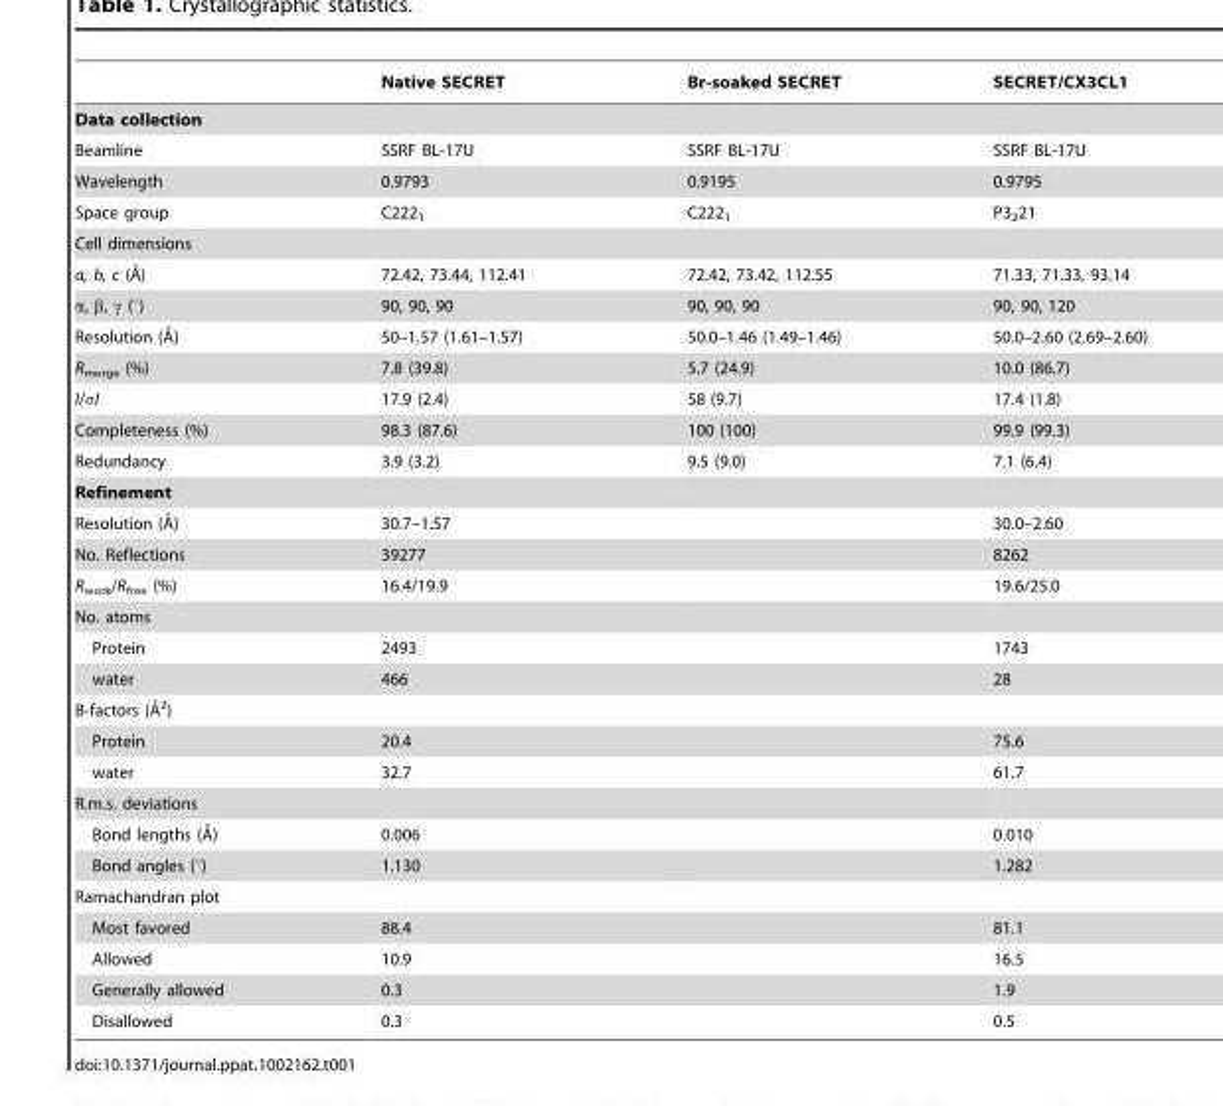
<table><thead><tr><td></td><td>Native SECRET</td><td>Br-soaked SECRET</td><td>SECRET/CX3CL1</td></tr></thead><tbody><tr><td colspan="4">Data collection</td></tr><tr><td>Beamline</td><td>SSRF BL-17U</td><td>SSRF BL-17U</td><td>SSRF BL-17U</td></tr><tr><td>Wavelength</td><td>0.9793</td><td>0.9195</td><td>0.9795</td></tr><tr><td>Space group</td><td>C222<sub>1</sub></td><td>C222<sub>1</sub></td><td>P3<sub>2</sub>21</td></tr><tr><td colspan="4">Cell dimensions</td></tr><tr><td>a, b, c (A˚)</td><td>72.42, 73.44, 112.41</td><td>72.42, 73.42, 112.55</td><td>71.33, 71.33, 93.14</td></tr><tr><td>α, β, γ (°)</td><td>90, 90, 90</td><td>90, 90, 90</td><td>90, 90, 120</td></tr><tr><td>Resolution (A˚)</td><td>50–1.57 (1.61–1.57)</td><td>50.0–1.46 (1.49–1.46)</td><td>50.0–2.60 (2.69–2.60)</td></tr><tr><td>R<sub>merge</sub> (%)</td><td>7.8 (39.8)</td><td>5.7 (24.9)</td><td>10.0 (86.7)</td></tr><tr><td>I/σI</td><td>17.9 (2.4)</td><td>58 (9.7)</td><td>17.4 (1.8)</td></tr><tr><td>Completeness (%)</td><td>98.3 (87.6)</td><td>100 (100)</td><td>99.9 (99.3)</td></tr><tr><td>Redundancy</td><td>3.9 (3.2)</td><td>9.5 (9.0)</td><td>7.1 (6.4)</td></tr><tr><td colspan="4">Refinement</td></tr><tr><td>Resolution (A˚)</td><td>30.7–1.57</td><td></td><td>30.0–2.60</td></tr><tr><td>No. Reflections</td><td>39277</td><td></td><td>8262</td></tr><tr><td>R<sub>work</sub>/R<sub>free</sub> (%)</td><td>16.4/19.9</td><td></td><td>19.6/25.0</td></tr><tr><td colspan="4">No. atoms</td></tr><tr><td>Protein</td><td>2493</td><td></td><td>1743</td></tr><tr><td>water</td><td>466</td><td></td><td>28</td></tr><tr><td colspan="4">B-factors (A˚ 2)</td></tr><tr><td>Protein</td><td>20.4</td><td></td><td>75.6</td></tr><tr><td>water</td><td>32.7</td><td></td><td>61.7</td></tr><tr><td colspan="4">R.m.s. deviations</td></tr><tr><td>Bond lengths (A˚)</td><td>0.006</td><td></td><td>0.010</td></tr><tr><td>Bond angles (°)</td><td>1.130</td><td></td><td>1.282</td></tr><tr><td colspan="4">Ramachandran plot</td></tr><tr><td>Most favored</td><td>88.4</td><td></td><td>81.1</td></tr><tr><td>Allowed</td><td>10.9</td><td></td><td>16.5</td></tr><tr><td>Generally allowed</td><td>0.3</td><td></td><td>1.9</td></tr><tr><td>Disallowed</td><td>0.3</td><td></td><td>0.5</td></tr></tbody></table>